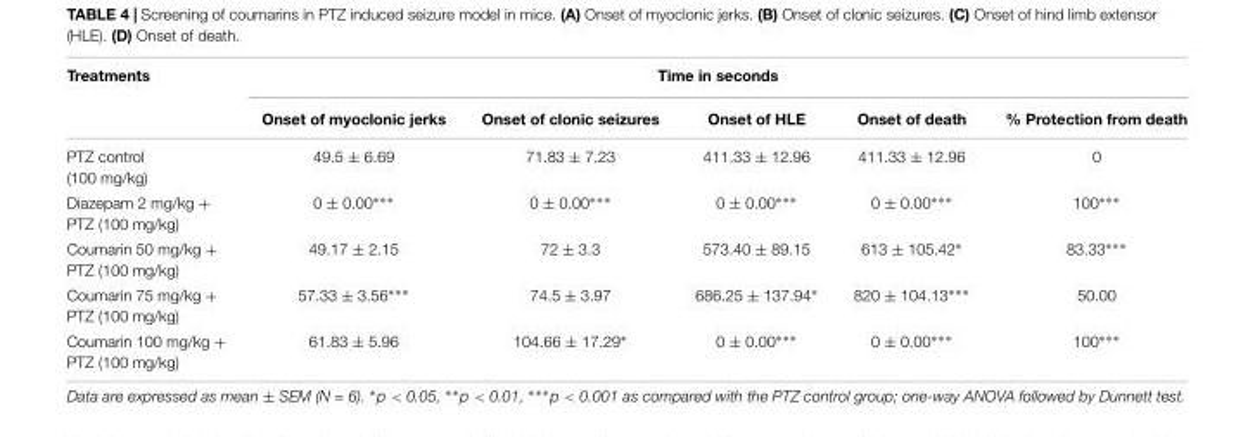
<table><thead><tr><td rowspan="2">Treatments</td><td colspan="5">Time in seconds</td></tr><tr><td>Onset of myoclonic jerks</td><td>Onset of clonic seizures</td><td>Onset of HLE</td><td>Onset of death</td><td>% Protection from death</td></tr></thead><tbody><tr><td>PTZ control (100 mg/kg)</td><td>49.5 ± 6.69</td><td>71.83 ± 7.23</td><td>411.33 ± 12.96</td><td>411.33 ± 12.96</td><td>0</td></tr><tr><td>Diazepam 2 mg/kg + PTZ (100 mg/kg)</td><td>0 ± 0.00∗∗∗</td><td>0 ± 0.00∗∗∗</td><td>0 ± 0.00∗∗∗</td><td>0 ± 0.00∗∗∗</td><td>100∗∗∗</td></tr><tr><td>Coumarin 50 mg/kg + PTZ (100 mg/kg)</td><td>49.17 ± 2.15</td><td>72 ± 3.3</td><td>573.40 ± 89.15</td><td>613 ± 105.42∗</td><td>83.33∗∗∗</td></tr><tr><td>Coumarin 75 mg/kg + PTZ (100 mg/kg)</td><td>57.33 ± 3.56∗∗∗</td><td>74.5 ± 3.97</td><td>686.25 ± 137.94∗</td><td>820 ± 104.13∗∗∗</td><td>50.00</td></tr><tr><td>Coumarin 100 mg/kg + PTZ (100 mg/kg)</td><td>61.83 ± 5.96</td><td>104.66 ± 17.29∗</td><td>0 ± 0.00∗∗∗</td><td>0 ± 0.00∗∗∗</td><td>100∗∗∗</td></tr></tbody></table>